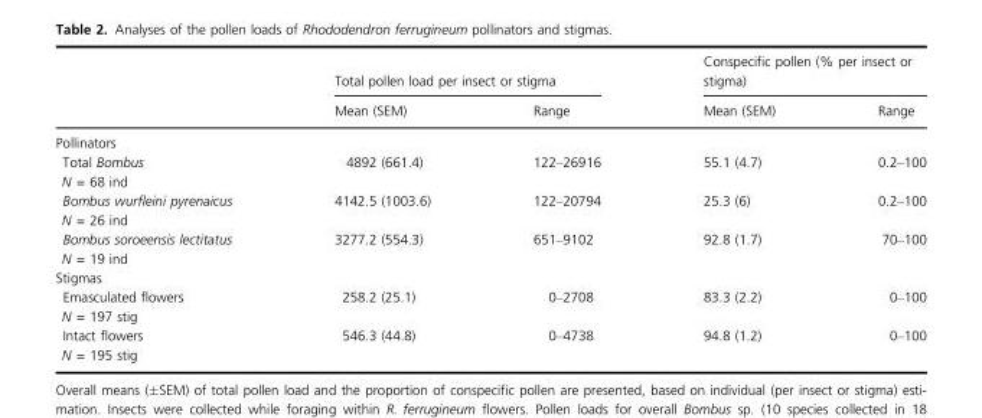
<table><thead><tr><td rowspan="2"></td><td colspan="2">Total pollen load per insect or stigma</td><td colspan="2">Conspecific pollen (% per insect or stigma)</td></tr><tr><td>Mean (SEM)</td><td>Range</td><td>Mean (SEM)</td><td>Range</td></tr></thead><tbody><tr><td colspan="5">Pollinators</td></tr><tr><td>Total Bombus N = 68 ind</td><td>4892 (661.4)</td><td>122–26916</td><td>55.1 (4.7)</td><td>0.2–100</td></tr><tr><td>Bombus wurfleini pyrenaicus N = 26 ind</td><td>4142.5 (1003.6)</td><td>122–20794</td><td>25.3 (6)</td><td>0.2–100</td></tr><tr><td>Bombus soroeensis lectitatus N = 19 ind</td><td>3277.2 (554.3)</td><td>651–9102</td><td>92.8 (1.7)</td><td>70–100</td></tr><tr><td colspan="5">Stigmas</td></tr><tr><td>Emasculated flowers N = 197 stig</td><td>258.2 (25.1)</td><td>0–2708</td><td>83.3 (2.2)</td><td>0–100</td></tr><tr><td>Intact flowers N = 195 stig</td><td>546.3 (44.8)</td><td>0–4738</td><td>94.8 (1.2)</td><td>0–100</td></tr></tbody></table>